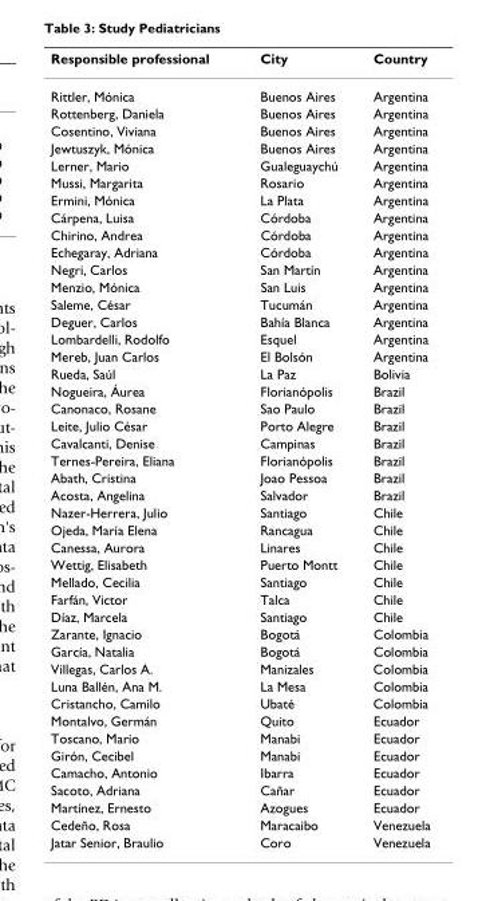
<table><thead><tr><td>Responsible professional</td><td>City</td><td>Country</td></tr></thead><tbody><tr><td>Rittler, Mónica</td><td>Buenos Aires</td><td>Argentina</td></tr><tr><td>Rottenberg, Daniela</td><td>Buenos Aires</td><td>Argentina</td></tr><tr><td>Cosentino, Viviana</td><td>Buenos Aires</td><td>Argentina</td></tr><tr><td>Jewtuszyk, Mónica</td><td>Buenos Aires</td><td>Argentina</td></tr><tr><td>Lerner, Mario</td><td>Gualeguaychú</td><td>Argentina</td></tr><tr><td>Mussi, Margarita</td><td>Rosario</td><td>Argentina</td></tr><tr><td>Ermini, Mónica</td><td>La Plata</td><td>Argentina</td></tr><tr><td>Cárpena, Luisa</td><td>Córdoba</td><td>Argentina</td></tr><tr><td>Chirino, Andrea</td><td>Córdoba</td><td>Argentina</td></tr><tr><td>Echegaray, Adriana</td><td>Córdoba</td><td>Argentina</td></tr><tr><td>Negri, Carlos</td><td>San Martín</td><td>Argentina</td></tr><tr><td>Menzio, Mónica</td><td>San Luis</td><td>Argentina</td></tr><tr><td>Saleme, César</td><td>Tucumán</td><td>Argentina</td></tr><tr><td>Deguer, Carlos</td><td>Bahía Blanca</td><td>Argentina</td></tr><tr><td>Lombardelli, Rodolfo</td><td>Esquel</td><td>Argentina</td></tr><tr><td>Mereb, Juan Carlos</td><td>El Bolsón</td><td>Argentina</td></tr><tr><td>Rueda, Saúl</td><td>La Paz</td><td>Bolivia</td></tr><tr><td>Nogueira, Áurea</td><td>Florianópolis</td><td>Brazil</td></tr><tr><td>Canonaco, Rosane</td><td>Sao Paulo</td><td>Brazil</td></tr><tr><td>Leite, Julio César</td><td>Porto Alegre</td><td>Brazil</td></tr><tr><td>Cavalcanti, Denise</td><td>Campinas</td><td>Brazil</td></tr><tr><td>Ternes-Pereira, Eliana</td><td>Florianópolis</td><td>Brazil</td></tr><tr><td>Abath, Cristina</td><td>Joao Pessoa</td><td>Brazil</td></tr><tr><td>Acosta, Angelina</td><td>Salvador</td><td>Brazil</td></tr><tr><td>Nazer-Herrera, Julio</td><td>Santiago</td><td>Chile</td></tr><tr><td>Ojeda, María Elena</td><td>Rancagua</td><td>Chile</td></tr><tr><td>Canessa, Aurora</td><td>Linares</td><td>Chile</td></tr><tr><td>Wettig, Elisabeth</td><td>Puerto Montt</td><td>Chile</td></tr><tr><td>Mellado, Cecilia</td><td>Santiago</td><td>Chile</td></tr><tr><td>Farfán, Victor</td><td>Talca</td><td>Chile</td></tr><tr><td>Díaz, Marcela</td><td>Santiago</td><td>Chile</td></tr><tr><td>Zarante, Ignacio</td><td>Bogotá</td><td>Colombia</td></tr><tr><td>García, Natalia</td><td>Bogotá</td><td>Colombia</td></tr><tr><td>Villegas, Carlos A.</td><td>Manizales</td><td>Colombia</td></tr><tr><td>Luna Ballén, Ana M.</td><td>La Mesa</td><td>Colombia</td></tr><tr><td>Cristancho, Camilo</td><td>Ubaté</td><td>Colombia</td></tr><tr><td>Montalvo, Germán</td><td>Quito</td><td>Ecuador</td></tr><tr><td>Toscano, Mario</td><td>Manabi</td><td>Ecuador</td></tr><tr><td>Girón, Cecibel</td><td>Manabi</td><td>Ecuador</td></tr><tr><td>Camacho, Antonio</td><td>Ibarra</td><td>Ecuador</td></tr><tr><td>Sacoto, Adriana</td><td>Cañar</td><td>Ecuador</td></tr><tr><td>Martínez, Ernesto</td><td>Azogues</td><td>Ecuador</td></tr><tr><td>Cedeño, Rosa</td><td>Maracaibo</td><td>Venezuela</td></tr><tr><td>Jatar Senior, Braulio</td><td>Coro</td><td>Venezuela</td></tr></tbody></table>